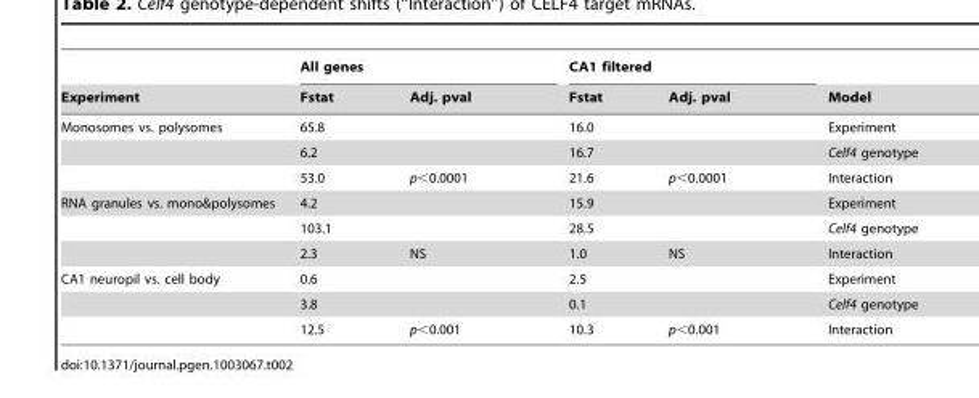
<table><thead><tr><td rowspan="2">Experiment</td><td colspan="2">All genes</td><td colspan="2">CA1 filtered</td><td rowspan="2">Model</td></tr><tr><td>Fstat</td><td>Adj. pval</td><td>Fstat</td><td>Adj. pval</td></tr></thead><tbody><tr><td rowspan="3">Monosomes vs. polysomes</td><td>65.8</td><td></td><td>16.0</td><td></td><td>Experiment</td></tr><tr><td>6.2</td><td></td><td>16.7</td><td></td><td>Celf4 genotype</td></tr><tr><td>53.0</td><td>p&lt;0.0001</td><td>21.6</td><td>p&lt;0.0001</td><td>Interaction</td></tr><tr><td rowspan="3">RNA granules vs. mono&amp;polysomes</td><td>4.2</td><td></td><td>15.9</td><td></td><td>Experiment</td></tr><tr><td>103.1</td><td></td><td>28.5</td><td></td><td>Celf4 genotype</td></tr><tr><td>2.3</td><td>NS</td><td>1.0</td><td>NS</td><td>Interaction</td></tr><tr><td rowspan="3">CA1 neuropil vs. cell body</td><td>0.6</td><td></td><td>2.5</td><td></td><td>Experiment</td></tr><tr><td>3.8</td><td></td><td>0.1</td><td></td><td>Celf4 genotype</td></tr><tr><td>12.5</td><td>p&lt;0.001</td><td>10.3</td><td>p&lt;0.001</td><td>Interaction</td></tr></tbody></table>